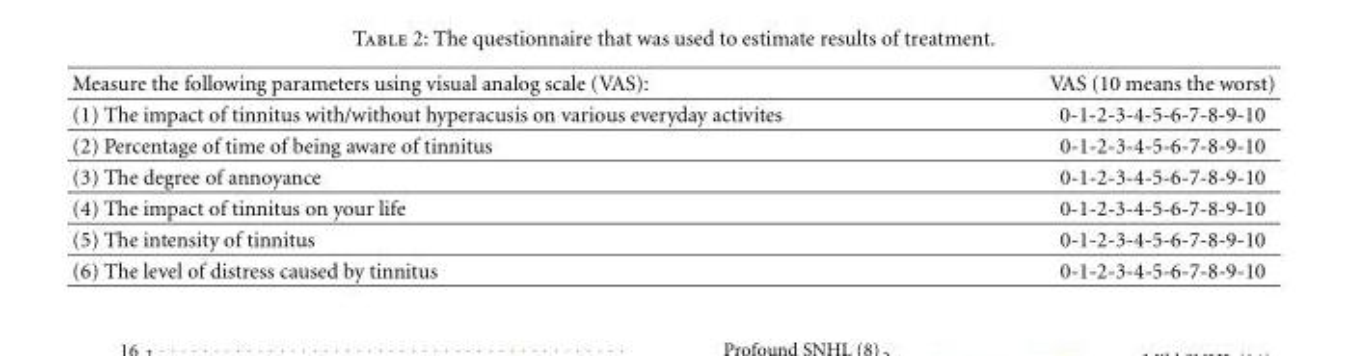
<table><thead><tr><td>Measure the following parameters using visual analog scale (VAS):</td><td>VAS (10 means the worst)</td></tr></thead><tbody><tr><td>(1) The impact of tinnitus with/without hyperacusis on various everyday activites</td><td>0-1-2-3-4-5-6-7-8-9-10</td></tr><tr><td>(2) Percentage of time of being aware of tinnitus</td><td>0-1-2-3-4-5-6-7-8-9-10</td></tr><tr><td>(3) The degree of annoyance</td><td>0-1-2-3-4-5-6-7-8-9-10</td></tr><tr><td>(4) The impact of tinnitus on your life</td><td>0-1-2-3-4-5-6-7-8-9-10</td></tr><tr><td>(5) The intensity of tinnitus</td><td>0-1-2-3-4-5-6-7-8-9-10</td></tr><tr><td>(6) The level of distress caused by tinnitus</td><td>0-1-2-3-4-5-6-7-8-9-10</td></tr></tbody></table>